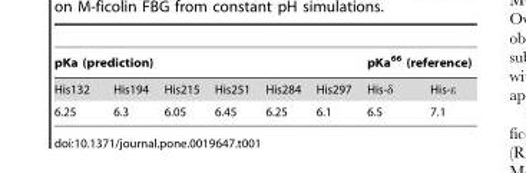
<table><thead><tr><td colspan="6">pKa (prediction)</td><td colspan="2">pKa<sup>66</sup> (reference)</td></tr><tr><td>His132</td><td>His194</td><td>His215</td><td>His251</td><td>His284</td><td>His297</td><td>His-δ</td><td>His-ε</td></tr></thead><tbody><tr><td>6.25</td><td>6.3</td><td>6.05</td><td>6.45</td><td>6.25</td><td>6.1</td><td>6.5</td><td>7.1</td></tr></tbody></table>